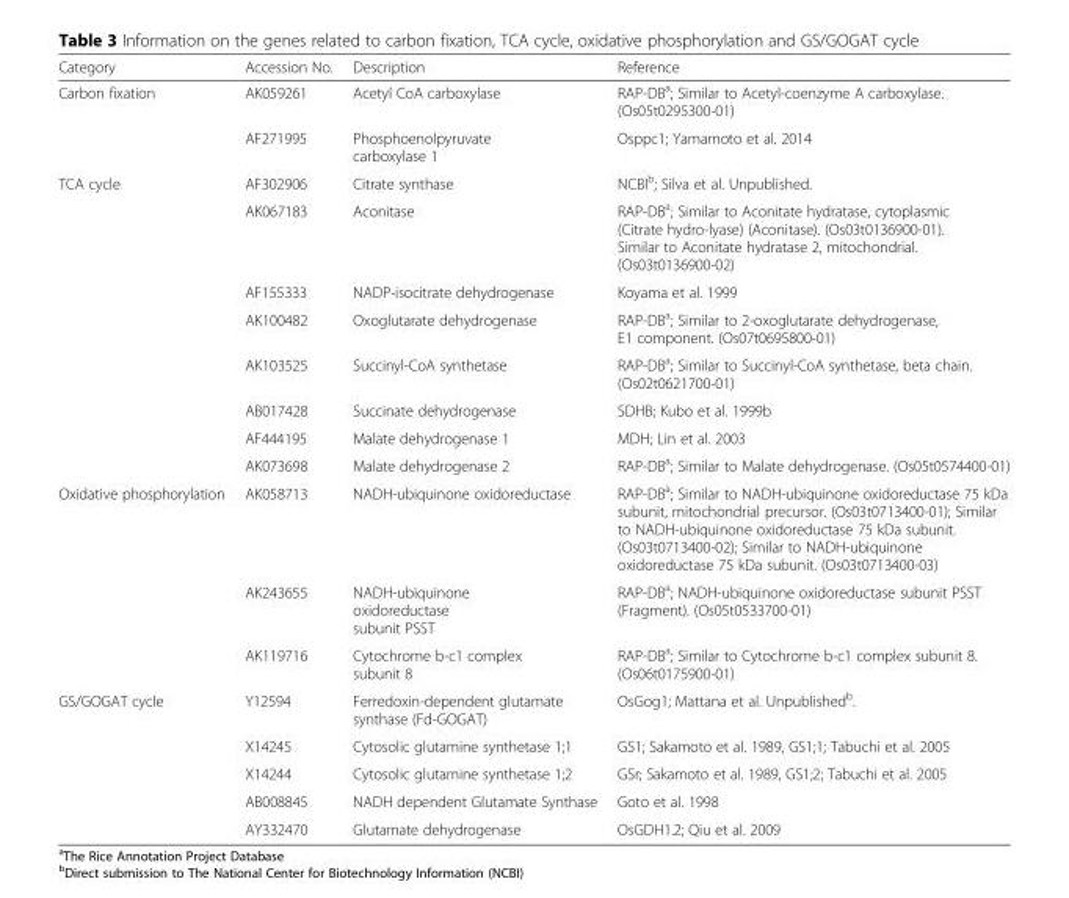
<table><thead><tr><td>Category</td><td>Accession No.</td><td>Description</td><td>Reference</td></tr></thead><tbody><tr><td rowspan="2">Carbon fixation</td><td>AK059261</td><td>Acetyl CoA carboxylase</td><td>RAP-DB<sup>a</sup>; Similar to Acetyl-coenzyme A carboxylase. (Os05t0295300-01)</td></tr><tr><td>AF271995</td><td>Phosphoenolpyruvate carboxylase 1</td><td>Osppc1; Yamamoto et al. 2014</td></tr><tr><td rowspan="8">TCA cycle</td><td>AF302906</td><td>Citrate synthase</td><td>NCBI<sup>b</sup>; Silva et al. Unpublished.</td></tr><tr><td>AK067183</td><td>Aconitase</td><td>RAP-DB<sup>a</sup>; Similar to Aconitate hydratase, cytoplasmic (Citrate hydro-lyase) (Aconitase). (Os03t0136900-01). Similar to Aconitate hydratase 2, mitochondrial. (Os03t0136900-02)</td></tr><tr><td>AF155333</td><td>NADP-isocitrate dehydrogenase</td><td>Koyama et al. 1999</td></tr><tr><td>AK100482</td><td>Oxoglutarate dehydrogenase</td><td>RAP-DB<sup>a</sup>; Similar to 2-oxoglutarate dehydrogenase, E1 component. (Os07t0695800-01)</td></tr><tr><td>AK103525</td><td>Succinyl-CoA synthetase</td><td>RAP-DB<sup>a</sup>; Similar to Succinyl-CoA synthetase, beta chain. (Os02t0621700-01)</td></tr><tr><td>AB017428</td><td>Succinate dehydrogenase</td><td>SDHB; Kubo et al. 1999b</td></tr><tr><td>AF444195</td><td>Malate dehydrogenase 1</td><td>MDH; Lin et al. 2003</td></tr><tr><td>AK073698</td><td>Malate dehydrogenase 2</td><td>RAP-DB<sup>a</sup>; Similar to Malate dehydrogenase. (Os05t0574400-01)</td></tr><tr><td rowspan="3">Oxidative phosphorylation</td><td>AK058713</td><td>NADH-ubiquinone oxidoreductase</td><td>RAP-DB<sup>a</sup>; Similar to NADH-ubiquinone oxidoreductase 75 kDa subunit, mitochondrial precursor. (Os03t0713400-01); Similar to NADH-ubiquinone oxidoreductase 75 kDa subunit. (Os03t0713400-02); Similar to NADH-ubiquinone oxidoreductase 75 kDa subunit. (Os03t0713400-03)</td></tr><tr><td>AK243655</td><td>NADH-ubiquinone oxidoreductase subunit PSST</td><td>RAP-DB<sup>a</sup>; NADH-ubiquinone oxidoreductase subunit PSST (Fragment). (Os05t0533700-01)</td></tr><tr><td>AK119716</td><td>Cytochrome b-c1 complex subunit 8</td><td>RAP-DB<sup>a</sup>; Similar to Cytochrome b-c1 complex subunit 8. (Os06t0175900-01)</td></tr><tr><td rowspan="5">GS/GOGAT cycle</td><td>Y12594</td><td>Ferredoxin-dependent glutamate synthase (Fd-GOGAT)</td><td>OsGog1; Mattana et al. Unpublished<sup>b</sup>.</td></tr><tr><td>X14245</td><td>Cytosolic glutamine synthetase 1;1</td><td>GS1; Sakamoto et al. 1989, GS1;1; Tabuchi et al. 2005</td></tr><tr><td>X14244</td><td>Cytosolic glutamine synthetase 1;2</td><td>GSr; Sakamoto et al. 1989, GS1;2; Tabuchi et al. 2005</td></tr><tr><td>AB008845</td><td>NADH dependent Glutamate Synthase</td><td>Goto et al. 1998</td></tr><tr><td>AY332470</td><td>Glutamate dehydrogenase</td><td>OsGDH1.2; Qiu et al. 2009</td></tr></tbody></table>